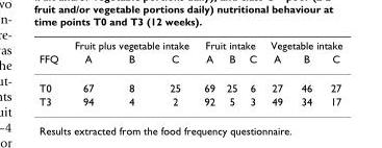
<table><thead><tr><td rowspan="2">FFQ</td><td colspan="3">Fruit plus vegetable intake</td><td colspan="3">Fruit intake</td><td colspan="3">Vegetable intake</td></tr><tr><td>A</td><td>B</td><td>C</td><td>A</td><td>B</td><td>C</td><td>A</td><td>B</td><td>C</td></tr></thead><tbody><tr><td>T0</td><td>67</td><td>8</td><td>25</td><td>69</td><td>25</td><td>6</td><td>27</td><td>46</td><td>27</td></tr><tr><td>T3</td><td>94</td><td>4</td><td>2</td><td>92</td><td>5</td><td>3</td><td>49</td><td>34</td><td>17</td></tr></tbody></table>